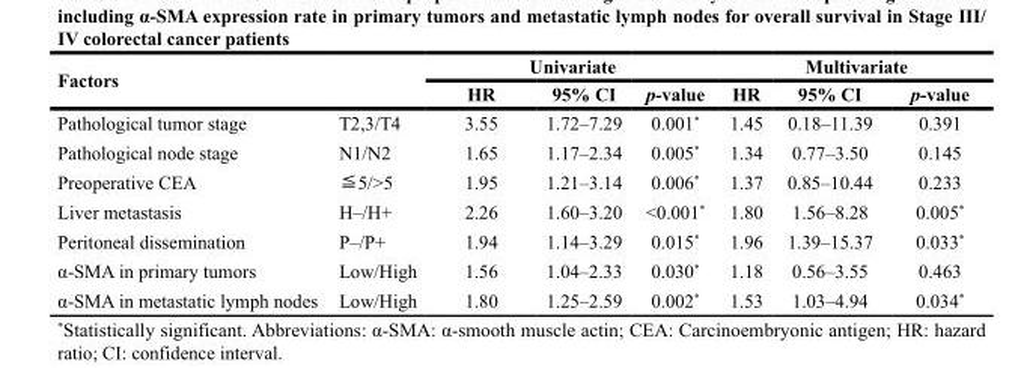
<table><thead><tr><td rowspan="2" colspan="2">Factors</td><td colspan="3">univariate</td><td colspan="3">Multivariate</td></tr><tr><td rowspan="2">Hr 3.55</td><td rowspan="2">95% cI 1.72–7.29</td><td rowspan="2">p-value 0.001*</td><td rowspan="2">Hr 1.45</td><td rowspan="2">95% cI 0.18–11.39</td><td rowspan="2">p-value 0.391</td></tr><tr><td>Pathological tumor stage</td><td>T2,3/T4</td></tr></thead><tbody><tr><td>Pathological node stage</td><td>N1/N2</td><td>1.65</td><td>1.17–2.34</td><td>0.005*</td><td>1.34</td><td>0.77–3.50</td><td>0.145</td></tr><tr><td>Preoperative CEA</td><td>≦5/&gt;5</td><td>1.95</td><td>1.21–3.14</td><td>0.006*</td><td>1.37</td><td>0.85–10.44</td><td>0.233</td></tr><tr><td>Liver metastasis</td><td>H–/H+</td><td>2.26</td><td>1.60–3.20</td><td>&lt;0.001*</td><td>1.80</td><td>1.56–8.28</td><td>0.005*</td></tr><tr><td>Peritoneal dissemination</td><td>P–/P+</td><td>1.94</td><td>1.14–3.29</td><td>0.015*</td><td>1.96</td><td>1.39–15.37</td><td>0.033*</td></tr><tr><td>α-SMA in primary tumors</td><td>Low/High</td><td>1.56</td><td>1.04–2.33</td><td>0.030*</td><td>1.18</td><td>0.56–3.55</td><td>0.463</td></tr><tr><td>α-SMA in metastatic lymph nodes</td><td>Low/High</td><td>1.80</td><td>1.25–2.59</td><td>0.002*</td><td>1.53</td><td>1.03–4.94</td><td>0.034*</td></tr></tbody></table>